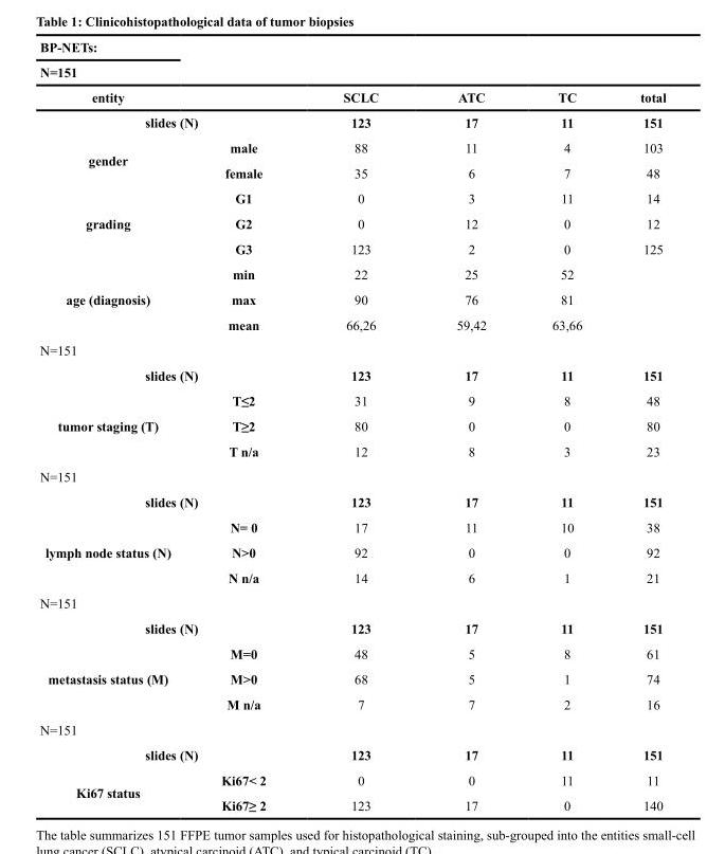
<table><thead><tr><td rowspan="3">BP-NETs: N=151 entity</td><td rowspan="3"></td><td rowspan="3">SCLC</td><td rowspan="3">ATC</td><td rowspan="3">TC</td><td rowspan="3">total</td></tr><tr></tr><tr></tr></thead><tbody><tr><td colspan="2">slides (N)</td><td>123</td><td>17</td><td>11</td><td>151</td></tr><tr><td rowspan="2">gender</td><td>male</td><td>88</td><td>11</td><td>4</td><td>103</td></tr><tr><td>female</td><td>35</td><td>6</td><td>7</td><td>48</td></tr><tr><td rowspan="3">grading</td><td>G1</td><td>0</td><td>3</td><td>11</td><td>14</td></tr><tr><td>G2</td><td>0</td><td>12</td><td>0</td><td>12</td></tr><tr><td>G3</td><td>123</td><td>2</td><td>0</td><td>125</td></tr><tr><td rowspan="3">age (diagnosis)</td><td>min</td><td>22</td><td>25</td><td>52</td><td></td></tr><tr><td>max</td><td>90</td><td>76</td><td>81</td><td></td></tr><tr><td>mean</td><td>66,26</td><td>59,42</td><td>63,66</td><td></td></tr><tr><td colspan="6">N=151</td></tr><tr><td colspan="2">slides (N)</td><td>123</td><td>17</td><td>11</td><td>151</td></tr><tr><td rowspan="3">tumor staging (T)</td><td>T≤2</td><td>31</td><td>9</td><td>8</td><td>48</td></tr><tr><td>T≥2</td><td>80</td><td>0</td><td>0</td><td>80</td></tr><tr><td>T n/a</td><td>12</td><td>8</td><td>3</td><td>23</td></tr><tr><td colspan="6">N=151</td></tr><tr><td colspan="2">slides (N)</td><td>123</td><td>17</td><td>11</td><td>151</td></tr><tr><td rowspan="3">lymph node status (N)</td><td>N= 0</td><td>17</td><td>11</td><td>10</td><td>38</td></tr><tr><td>N&gt;0</td><td>92</td><td>0</td><td>0</td><td>92</td></tr><tr><td>N n/a</td><td>14</td><td>6</td><td>1</td><td>21</td></tr><tr><td colspan="6">N=151</td></tr><tr><td colspan="2">slides (N)</td><td>123</td><td>17</td><td>11</td><td>151</td></tr><tr><td rowspan="3">metastasis status (M)</td><td>M=0</td><td>48</td><td>5</td><td>8</td><td>61</td></tr><tr><td>M&gt;0</td><td>68</td><td>5</td><td>1</td><td>74</td></tr><tr><td>M n/a</td><td>7</td><td>7</td><td>2</td><td>16</td></tr><tr><td colspan="6">N=151</td></tr><tr><td colspan="2">slides (N)</td><td>123</td><td>17</td><td>11</td><td>151</td></tr><tr><td rowspan="2">Ki67 status</td><td>Ki67&lt; 2</td><td>0</td><td>0</td><td>11</td><td>11</td></tr><tr><td>Ki67≥ 2</td><td>123</td><td>17</td><td>0</td><td>140</td></tr></tbody></table>